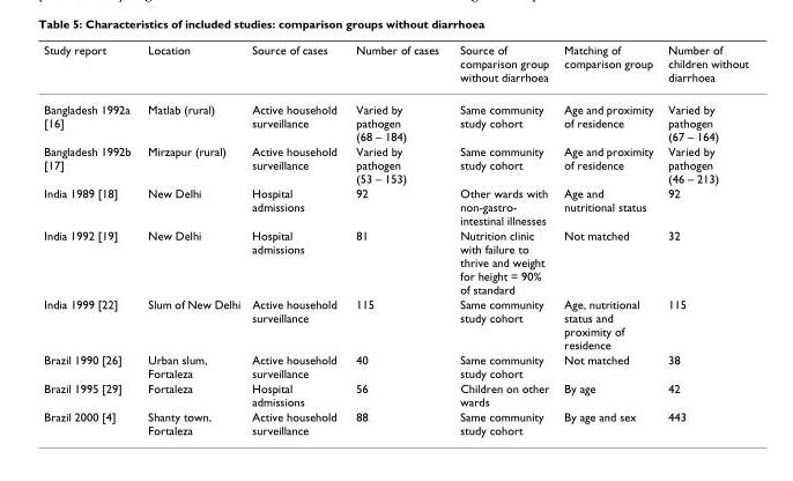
<table><thead><tr><td>Study report</td><td>Location</td><td>Source of cases</td><td>Number of cases</td><td>Source of comparison group without diarrhoea</td><td>Matching of comparison group</td><td>Number of children without diarrhoea</td></tr></thead><tbody><tr><td>Bangladesh 1992a [16]</td><td>Matlab (rural)</td><td>Active household surveillance</td><td>Varied by pathogen (68 – 184)</td><td>Same community study cohort</td><td>Age and proximity of residence</td><td>Varied by pathogen (67 – 164)</td></tr><tr><td>Bangladesh 1992b [17]</td><td>Mirzapur (rural)</td><td>Active household surveillance</td><td>Varied by pathogen (53 – 153)</td><td>Same community study cohort</td><td>Age and proximity of residence</td><td>Varied by pathogen (46 – 213)</td></tr><tr><td>India 1989 [18]</td><td>New Delhi</td><td>Hospital admissions</td><td>92</td><td>Other wards with non-gastro- intestinal illnesses</td><td>Age and nutritional status</td><td>92</td></tr><tr><td>India 1992 [19]</td><td>New Delhi</td><td>Hospital admissions</td><td>81</td><td>Nutrition clinic with failure to thrive and weight for height = 90% of standard</td><td>Not matched</td><td>32</td></tr><tr><td>India 1999 [22]</td><td>Slum of New Delhi</td><td>Active household surveillance</td><td>115</td><td>Same community study cohort</td><td>Age, nutritional status and proximity of residence</td><td>115</td></tr><tr><td>Brazil 1990 [26]</td><td>Urban slum, Fortaleza</td><td>Active household surveillance</td><td>40</td><td>Same community study cohort</td><td>Not matched</td><td>38</td></tr><tr><td>Brazil 1995 [29]</td><td>Fortaleza</td><td>Hospital admissions</td><td>56</td><td>Children on other wards</td><td>By age</td><td>42</td></tr><tr><td>Brazil 2000 [4]</td><td>Shanty town, Fortaleza</td><td>Active household surveillance</td><td>88</td><td>Same community study cohort</td><td>By age and sex</td><td>443</td></tr></tbody></table>